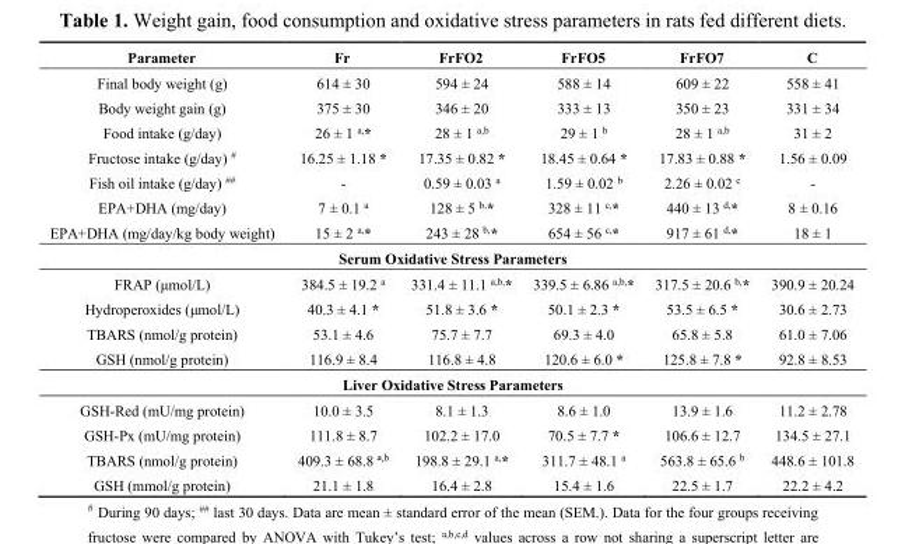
<table><thead><tr><td>Parameter</td><td>Fr</td><td>FrFO2</td><td>FrFO5</td><td>FrFO7</td><td>C</td></tr></thead><tbody><tr><td>Final body weight (g)</td><td>614 ± 30</td><td>594 ± 24</td><td>588 ± 14</td><td>609 ± 22</td><td>558 ± 41</td></tr><tr><td>Body weight gain (g)</td><td>375 ± 30</td><td>346 ± 20</td><td>333 ± 13</td><td>350 ± 23</td><td>331 ± 34</td></tr><tr><td>Food intake (g/day)</td><td>26 ± 1 <sup>a,</sup>*</td><td>28 ± 1 <sup>a,b</sup></td><td>29 ± 1 <sup>b</sup></td><td>28 ± 1 <sup>a,b</sup></td><td>31 ± 2</td></tr><tr><td>Fructose intake (g/day) <sup>#</sup></td><td>16.25 ± 1.18 *</td><td>17.35 ± 0.82 *</td><td>18.45 ± 0.64 *</td><td>17.83 ± 0.88 *</td><td>1.56 ± 0.09</td></tr><tr><td>Fish oil intake (g/day) <sup>##</sup></td><td>-</td><td>0.59 ± 0.03 <sup>a</sup></td><td>1.59 ± 0.02 <sup>b</sup></td><td>2.26 ± 0.02 <sup>c</sup></td><td>-</td></tr><tr><td>EPA+DHA (mg/day)</td><td>7 ± 0.1 <sup>a</sup></td><td>128 ± 5 <sup>b,</sup>*</td><td>328 ± 11 <sup>c,</sup>*</td><td>440 ± 13 <sup>d,</sup>*</td><td>8 ± 0.16</td></tr><tr><td>EPA+DHA (mg/day/kg body weight)</td><td>15 ± 2 <sup>a,</sup>*</td><td>243 ± 28 <sup>b,</sup>*</td><td>654 ± 56 <sup>c,</sup>*</td><td>917 ± 61 <sup>d,</sup>*</td><td>18 ± 1</td></tr><tr><td colspan="6">Serum Oxidative Stress Parameters</td></tr><tr><td>FRAP (μmol/L)</td><td>384.5 ± 19.2 <sup>a</sup></td><td>331.4 ± 11.1 <sup>a,b,</sup>*</td><td>339.5 ± 6.86 <sup>a,b,</sup>*</td><td>317.5 ± 20.6 <sup>b,</sup>*</td><td>390.9 ± 20.24</td></tr><tr><td>Hydroperoxides (μmol/L)</td><td>40.3 ± 4.1 *</td><td>51.8 ± 3.6 *</td><td>50.1 ± 2.3 *</td><td>53.5 ± 6.5 *</td><td>30.6 ± 2.73</td></tr><tr><td>TBARS (nmol/g protein)</td><td>53.1 ± 4.6</td><td>75.7 ± 7.7</td><td>69.3 ± 4.0</td><td>65.8 ± 5.8</td><td>61.0 ± 7.06</td></tr><tr><td>GSH (nmol/g protein)</td><td>116.9 ± 8.4</td><td>116.8 ± 4.8</td><td>120.6 ± 6.0 *</td><td>125.8 ± 7.8 *</td><td>92.8 ± 8.53</td></tr><tr><td colspan="6">Liver Oxidative Stress Parameters</td></tr><tr><td>GSH-Red (mU/mg protein)</td><td>10.0 ± 3.5</td><td>8.1 ± 1.3</td><td>8.6 ± 1.0</td><td>13.9 ± 1.6</td><td>11.2 ± 2.78</td></tr><tr><td>GSH-Px (mU/mg protein)</td><td>111.8 ± 8.7</td><td>102.2 ± 17.0</td><td>70.5 ± 7.7 *</td><td>106.6 ± 12.7</td><td>134.5 ± 27.1</td></tr><tr><td>TBARS (nmol/g protein)</td><td>409.3 ± 68.8 ª<sup>,b</sup></td><td>198.8 ± 29.1 <sup>a,</sup>*</td><td>311.7 ± 48.1 <sup>a</sup></td><td>563.8 ± 65.6 <sup>b</sup></td><td>448.6 ± 101.8</td></tr><tr><td>GSH (mmol/g protein)</td><td>21.1 ± 1.8</td><td>16.4 ± 2.8</td><td>15.4 ± 1.6</td><td>22.5 ± 1.7</td><td>22.2 ± 4.2</td></tr></tbody></table>